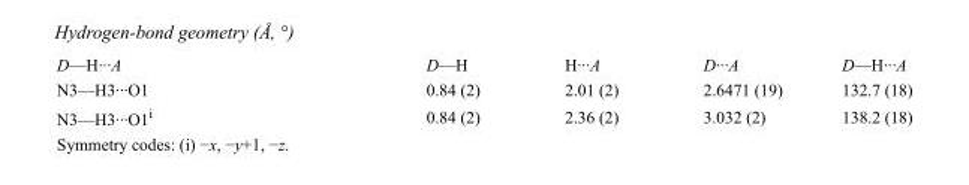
<table><tbody><tr><td>D—H···A</td><td>D—H</td><td>H···A</td><td>D···A</td><td>D—H···A</td></tr><tr><td>N3—H3···O1</td><td>0.84 (2)</td><td>2.01 (2)</td><td>2.6471 (19)</td><td>132.7 (18)</td></tr><tr><td>N3—H3···O1<sup>i</sup></td><td>0.84 (2)</td><td>2.36 (2)</td><td>3.032 (2)</td><td>138.2 (18)</td></tr></tbody></table>